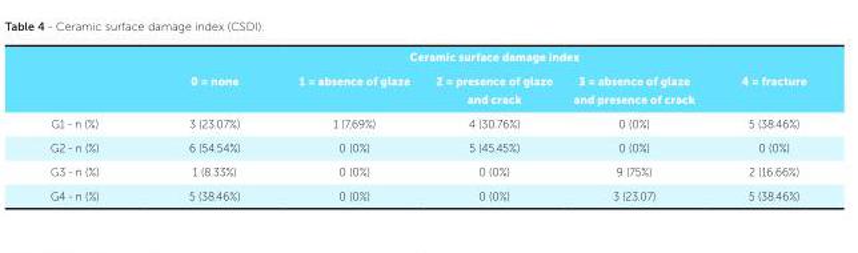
<table><thead><tr><td rowspan="2"></td><td colspan="5">Ceramic surface damage index</td></tr><tr><td>0 = none</td><td>1 = absence of glaze</td><td>2 = presence of glaze and crack</td><td>3 = absence of glaze and presence of crack</td><td>4 = fracture</td></tr></thead><tbody><tr><td>G1 - n (%)</td><td>3 (23.07%)</td><td>1 (7,69%)</td><td>4 (30.76%)</td><td>0 (0%)</td><td>5 (38.46%)</td></tr><tr><td>G2 - n (%)</td><td>6 (54.54%)</td><td>0 (0%)</td><td>5 (45.45%)</td><td>0 (0%)</td><td>0 (0%)</td></tr><tr><td>G3 - n (%)</td><td>1 (8.33%)</td><td>0 (0%)</td><td>0 (0%)</td><td>9 (75%)</td><td>2 (16.66%)</td></tr><tr><td>G4 - n (%)</td><td>5 (38.46%)</td><td>0 (0%)</td><td>0 (0%)</td><td>3 (23.07)</td><td>5 (38.46%)</td></tr></tbody></table>